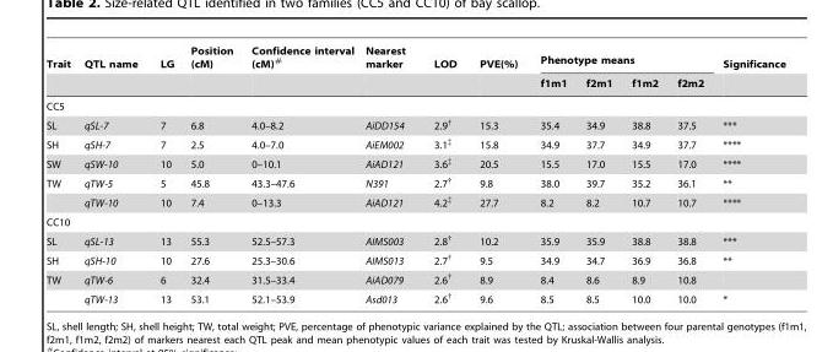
<table><thead><tr><td rowspan="2">Trait</td><td rowspan="2">QTL name</td><td rowspan="2">LG</td><td rowspan="2">Position (cM)</td><td rowspan="2">Confidence interval (cM)#</td><td rowspan="2">Nearest marker</td><td rowspan="2">LOD</td><td rowspan="2">PVE(%)</td><td colspan="4">Phenotype means</td><td rowspan="2">Significance</td></tr><tr><td>f1m1</td><td>f2m1</td><td>f1m2</td><td>f2m2</td></tr></thead><tbody><tr><td colspan="13">CC5</td></tr><tr><td>SL</td><td>qSL-7</td><td>7</td><td>6.8</td><td>4.0–8.2</td><td>AiDD154</td><td>2.9†</td><td>15.3</td><td>35.4</td><td>34.9</td><td>38.8</td><td>37.5</td><td>***</td></tr><tr><td>SH</td><td>qSH-7</td><td>7</td><td>2.5</td><td>4.0–7.0</td><td>AiEM002</td><td>3.1‡</td><td>15.8</td><td>34.9</td><td>37.7</td><td>34.9</td><td>37.7</td><td>****</td></tr><tr><td>SW</td><td>qSW-10</td><td>10</td><td>5.0</td><td>0–10.1</td><td>AiAD121</td><td>3.6‡</td><td>20.5</td><td>15.5</td><td>17.0</td><td>15.5</td><td>17.0</td><td>****</td></tr><tr><td rowspan="2">TW</td><td>qTW-5</td><td>5</td><td>45.8</td><td>43.3–47.6</td><td>N391</td><td>2.7†</td><td>9.8</td><td>38.0</td><td>39.7</td><td>35.2</td><td>36.1</td><td>**</td></tr><tr><td>qTW-10</td><td>10</td><td>7.4</td><td>0–13.3</td><td>AiAD121</td><td>4.2‡</td><td>27.7</td><td>8.2</td><td>8.2</td><td>10.7</td><td>10.7</td><td>****</td></tr><tr><td colspan="13">CC10</td></tr><tr><td>SL</td><td>qSL-13</td><td>13</td><td>55.3</td><td>52.5–57.3</td><td>AIMS003</td><td>2.8†</td><td>10.2</td><td>35.9</td><td>35.9</td><td>38.8</td><td>38.8</td><td>***</td></tr><tr><td>SH</td><td>qSH-10</td><td>10</td><td>27.6</td><td>25.3–30.6</td><td>AIMS013</td><td>2.7†</td><td>9.5</td><td>34.9</td><td>34.7</td><td>36.9</td><td>36.8</td><td>**</td></tr><tr><td rowspan="2">TW</td><td>qTW-6</td><td>6</td><td>32.4</td><td>31.5–33.4</td><td>AiAD079</td><td>2.6†</td><td>8.9</td><td>8.4</td><td>8.6</td><td>8.9</td><td>10.8</td><td></td></tr><tr><td>qTW-13</td><td>13</td><td>53.1</td><td>52.1–53.9</td><td>Asd013</td><td>2.6†</td><td>9.6</td><td>8.5</td><td>8.5</td><td>10.0</td><td>10.0</td><td>*</td></tr></tbody></table>